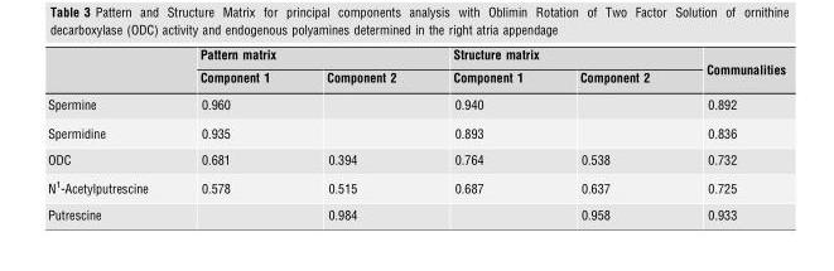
<table><thead><tr><td rowspan="2"></td><td colspan="2">Pattern matrix</td><td colspan="2">Structure matrix</td><td rowspan="2">Communalities</td></tr><tr><td>Component 1</td><td>Component 2</td><td>Component 1</td><td>Component 2</td></tr></thead><tbody><tr><td>Spermine</td><td>0.960</td><td></td><td>0.940</td><td></td><td>0.892</td></tr><tr><td>Spermidine</td><td>0.935</td><td></td><td>0.893</td><td></td><td>0.836</td></tr><tr><td>ODC</td><td>0.681</td><td>0.394</td><td>0.764</td><td>0.538</td><td>0.732</td></tr><tr><td>N<sup>1</sup>-Acetylputrescine</td><td>0.578</td><td>0.515</td><td>0.687</td><td>0.637</td><td>0.725</td></tr><tr><td>Putrescine</td><td></td><td>0.984</td><td></td><td>0.958</td><td>0.933</td></tr></tbody></table>